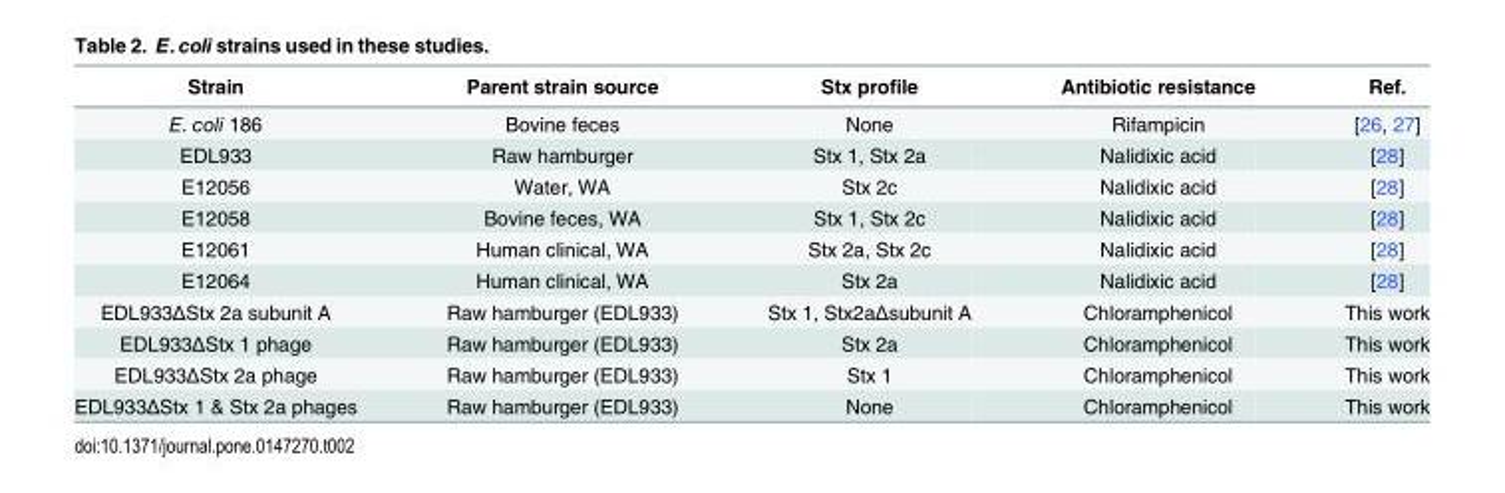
<table><thead><tr><td>Strain</td><td>Parent strain source</td><td>Stx profile</td><td>Antibiotic resistance</td><td>Ref.</td></tr></thead><tbody><tr><td>E. coli 186</td><td>Bovine feces</td><td>None</td><td>Rifampicin</td><td>[26, 27]</td></tr><tr><td>EDL933</td><td>Raw hamburger</td><td>Stx 1, Stx 2a</td><td>Nalidixic acid</td><td>[28]</td></tr><tr><td>E12056</td><td>Water, WA</td><td>Stx 2c</td><td>Nalidixic acid</td><td>[28]</td></tr><tr><td>E12058</td><td>Bovine feces, WA</td><td>Stx 1, Stx 2c</td><td>Nalidixic acid</td><td>[28]</td></tr><tr><td>E12061</td><td>Human clinical, WA</td><td>Stx 2a, Stx 2c</td><td>Nalidixic acid</td><td>[28]</td></tr><tr><td>E12064</td><td>Human clinical, WA</td><td>Stx 2a</td><td>Nalidixic acid</td><td>[28]</td></tr><tr><td>EDL933ΔStx 2a subunit A</td><td>Raw hamburger (EDL933)</td><td>Stx 1, Stx2aΔsubunit A</td><td>Chloramphenicol</td><td>This work</td></tr><tr><td>EDL933ΔStx 1 phage</td><td>Raw hamburger (EDL933)</td><td>Stx 2a</td><td>Chloramphenicol</td><td>This work</td></tr><tr><td>EDL933ΔStx 2a phage</td><td>Raw hamburger (EDL933)</td><td>Stx 1</td><td>Chloramphenicol</td><td>This work</td></tr><tr><td>EDL933ΔStx 1 &amp; Stx 2a phages</td><td>Raw hamburger (EDL933)</td><td>None</td><td>Chloramphenicol</td><td>This work</td></tr></tbody></table>